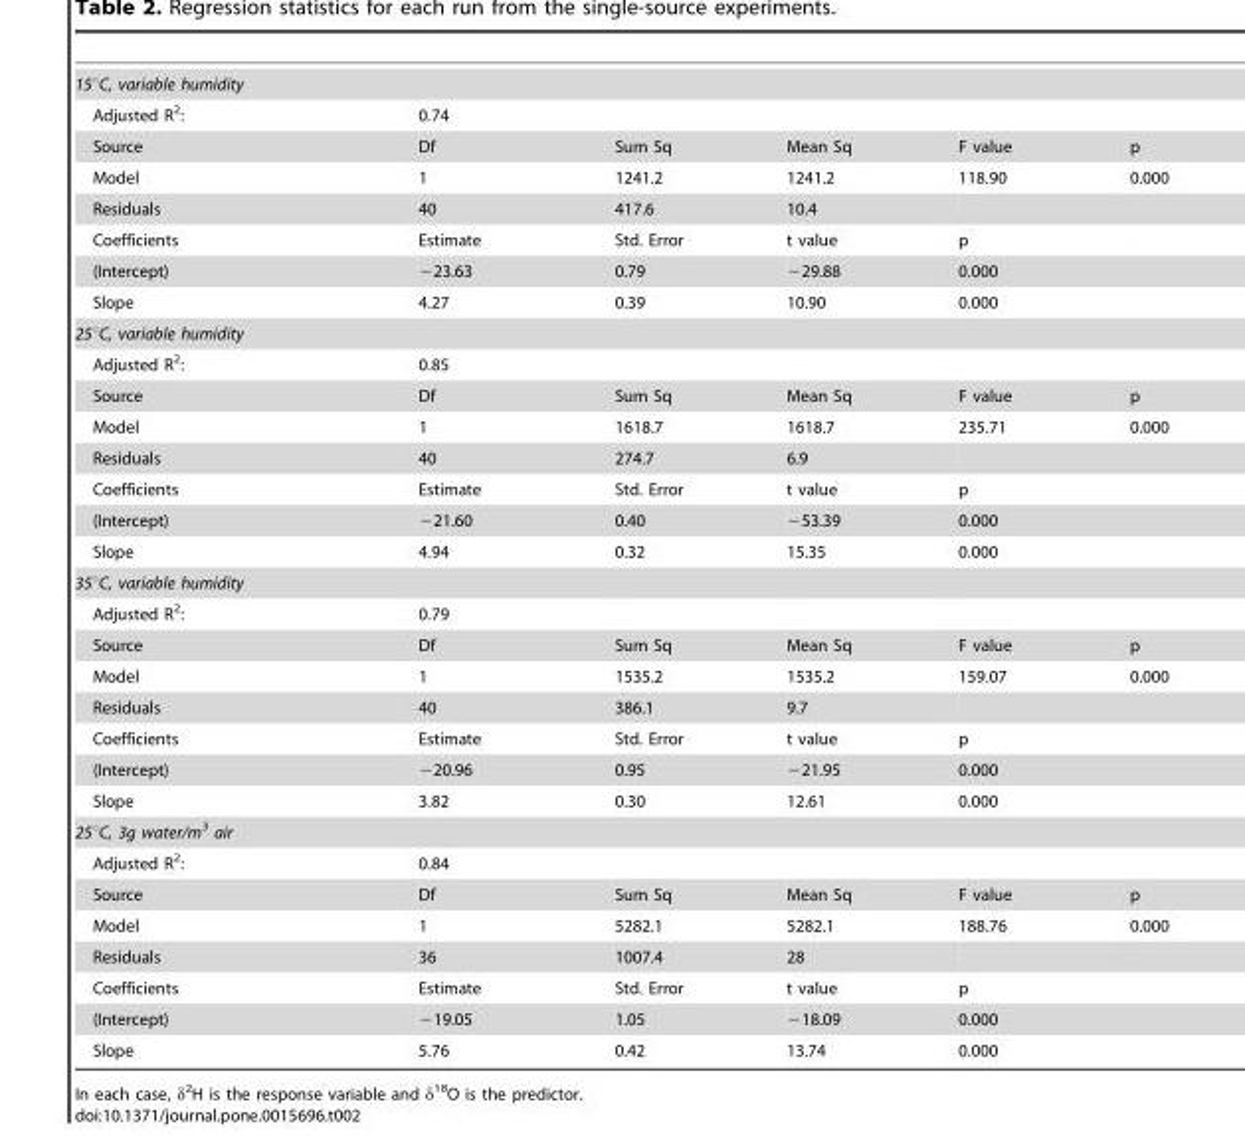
<table><tbody><tr><td colspan="6">15°C, variable humidity</td></tr><tr><td>Adjusted R<sup>2</sup>:</td><td>0.74</td><td></td><td></td><td></td><td></td></tr><tr><td>Source</td><td>Df</td><td>Sum Sq</td><td>Mean Sq</td><td>F value</td><td>p</td></tr><tr><td>Model</td><td>1</td><td>1241.2</td><td>1241.2</td><td>118.90</td><td>0.000</td></tr><tr><td>Residuals</td><td>40</td><td>417.6</td><td>10.4</td><td></td><td></td></tr><tr><td>Coefficients</td><td>Estimate</td><td>Std. Error</td><td>t value</td><td>p</td><td></td></tr><tr><td>(Intercept)</td><td>−23.63</td><td>0.79</td><td>−29.88</td><td>0.000</td><td></td></tr><tr><td>Slope</td><td>4.27</td><td>0.39</td><td>10.90</td><td>0.000</td><td></td></tr><tr><td colspan="6">25°C, variable humidity</td></tr><tr><td>Adjusted R<sup>2</sup>:</td><td>0.85</td><td></td><td></td><td></td><td></td></tr><tr><td>Source</td><td>Df</td><td>Sum Sq</td><td>Mean Sq</td><td>F value</td><td>p</td></tr><tr><td>Model</td><td>1</td><td>1618.7</td><td>1618.7</td><td>235.71</td><td>0.000</td></tr><tr><td>Residuals</td><td>40</td><td>274.7</td><td>6.9</td><td></td><td></td></tr><tr><td>Coefficients</td><td>Estimate</td><td>Std. Error</td><td>t value</td><td>p</td><td></td></tr><tr><td>(Intercept)</td><td>−21.60</td><td>0.40</td><td>−53.39</td><td>0.000</td><td></td></tr><tr><td>Slope</td><td>4.94</td><td>0.32</td><td>15.35</td><td>0.000</td><td></td></tr><tr><td colspan="6">35°C, variable humidity</td></tr><tr><td>Adjusted R<sup>2</sup>:</td><td>0.79</td><td></td><td></td><td></td><td></td></tr><tr><td>Source</td><td>Df</td><td>Sum Sq</td><td>Mean Sq</td><td>F value</td><td>p</td></tr><tr><td>Model</td><td>1</td><td>1535.2</td><td>1535.2</td><td>159.07</td><td>0.000</td></tr><tr><td>Residuals</td><td>40</td><td>386.1</td><td>9.7</td><td></td><td></td></tr><tr><td>Coefficients</td><td>Estimate</td><td>Std. Error</td><td>t value</td><td>p</td><td></td></tr><tr><td>(Intercept)</td><td>−20.96</td><td>0.95</td><td>−21.95</td><td>0.000</td><td></td></tr><tr><td>Slope</td><td>3.82</td><td>0.30</td><td>12.61</td><td>0.000</td><td></td></tr><tr><td colspan="6">25°C, 3g water/m<sup>3</sup> air</td></tr><tr><td>Adjusted R<sup>2</sup>:</td><td>0.84</td><td></td><td></td><td></td><td></td></tr><tr><td>Source</td><td>Df</td><td>Sum Sq</td><td>Mean Sq</td><td>F value</td><td>p</td></tr><tr><td>Model</td><td>1</td><td>5282.1</td><td>5282.1</td><td>188.76</td><td>0.000</td></tr><tr><td>Residuals</td><td>36</td><td>1007.4</td><td>28</td><td></td><td></td></tr><tr><td>Coefficients</td><td>Estimate</td><td>Std. Error</td><td>t value</td><td>p</td><td></td></tr><tr><td>(Intercept)</td><td>−19.05</td><td>1.05</td><td>−18.09</td><td>0.000</td><td></td></tr><tr><td>Slope</td><td>5.76</td><td>0.42</td><td>13.74</td><td>0.000</td><td></td></tr></tbody></table>